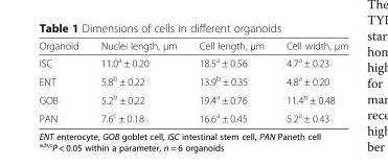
<table><thead><tr><td>Organoid</td><td>Nuclei length, μm</td><td>Cell length, μm</td><td>Cell width, μm</td></tr></thead><tbody><tr><td>ISC</td><td>11.0<sup>a</sup> ± 0.20</td><td>18.5<sup>a</sup> ± 0.56</td><td>4.7<sup>a</sup> ± 0.23</td></tr><tr><td>ENT</td><td>5.8<sup>b</sup> ± 0.22</td><td>13.9<sup>b</sup> ± 0.35</td><td>4.8<sup>a</sup> ± 0.20</td></tr><tr><td>GOB</td><td>5.2<sup>b</sup> ± 0.22</td><td>19.4<sup>a</sup> ± 0.76</td><td>11.4<sup>b</sup> ± 0.48</td></tr><tr><td>PAN</td><td>7.6<sup>c</sup> ± 0.18</td><td>16.6<sup>a</sup> ± 0.45</td><td>5.2<sup>a</sup> ± 0.43</td></tr></tbody></table>